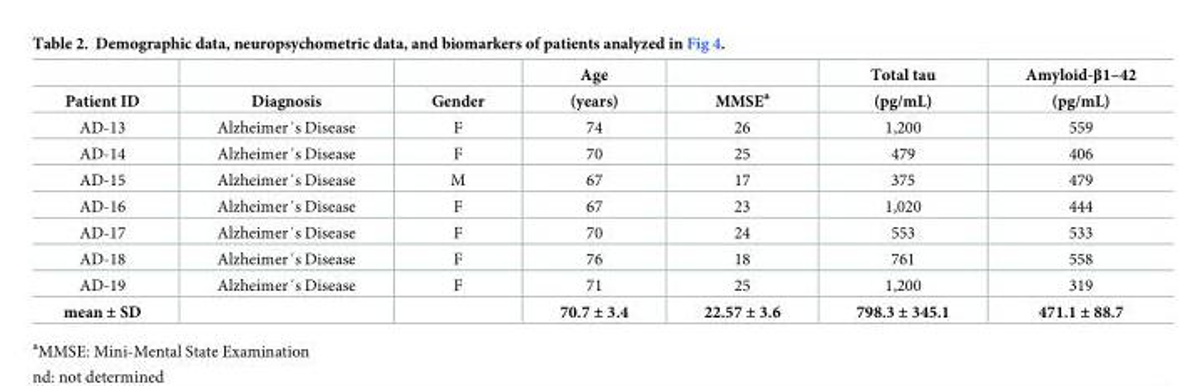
<table><thead><tr><td rowspan="2">Patient ID</td><td rowspan="2">Diagnosis</td><td rowspan="2">Gender</td><td rowspan="2">Age (years)</td><td rowspan="2">MMSE<sup>a</sup></td><td rowspan="2">Total tau (pg/mL)</td><td rowspan="2">Amyloid-β1–42 (pg/mL)</td></tr><tr></tr></thead><tbody><tr><td>AD-13</td><td>Alzheimer´s Disease</td><td>F</td><td>74</td><td>26</td><td>1,200</td><td>559</td></tr><tr><td>AD-14</td><td>Alzheimer´s Disease</td><td>F</td><td>70</td><td>25</td><td>479</td><td>406</td></tr><tr><td>AD-15</td><td>Alzheimer´s Disease</td><td>M</td><td>67</td><td>17</td><td>375</td><td>479</td></tr><tr><td>AD-16</td><td>Alzheimer´s Disease</td><td>F</td><td>67</td><td>23</td><td>1,020</td><td>444</td></tr><tr><td>AD-17</td><td>Alzheimer´s Disease</td><td>F</td><td>70</td><td>24</td><td>553</td><td>533</td></tr><tr><td>AD-18</td><td>Alzheimer´s Disease</td><td>F</td><td>76</td><td>18</td><td>761</td><td>558</td></tr><tr><td>AD-19</td><td>Alzheimer´s Disease</td><td>F</td><td>71</td><td>25</td><td>1,200</td><td>319</td></tr><tr><td>mean ± SD</td><td></td><td></td><td>70.7 ± 3.4</td><td>22.57 ± 3.6</td><td>798.3 ± 345.1</td><td>471.1 ± 88.7</td></tr></tbody></table>